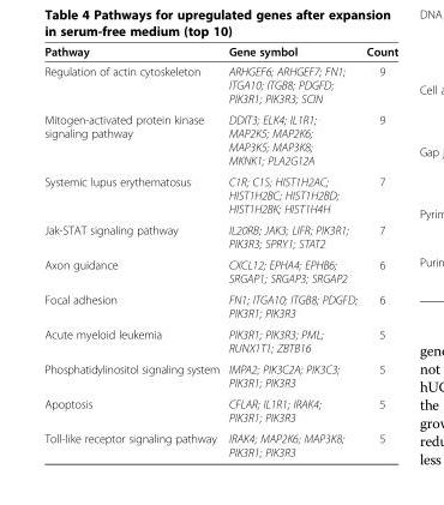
<table><thead><tr><td>Pathway</td><td>Gene symbol</td><td>Count</td></tr></thead><tbody><tr><td>Regulation of actin cytoskeleton</td><td>ARHGEF6; ARHGEF7; FN1; ITGA10; ITGB8; PDGFD; PIK3R1; PIK3R3; SCIN</td><td>9</td></tr><tr><td>Mitogen-activated protein kinase signaling pathway</td><td>DDIT3; ELK4; IL1R1; MAP2K5; MAP2K6; MAP3K5; MAP3K8; MKNK1; PLA2G12A</td><td>9</td></tr><tr><td>Systemic lupus erythematosus</td><td>C1R; C1S; HIST1H2AC; HIST1H2BC; HIST1H2BD; HIST1H2BK; HIST1H4H</td><td>7</td></tr><tr><td>Jak-STAT signaling pathway</td><td>IL20RB; JAK3; LIFR; PIK3R1; PIK3R3; SPRY1; STAT2</td><td>7</td></tr><tr><td>Axon guidance</td><td>CXCL12; EPHA4; EPHB6; SRGAP1; SRGAP3; SRGAP2</td><td>6</td></tr><tr><td>Focal adhesion</td><td>FN1; ITGA10; ITGB8; PDGFD; PIK3R1; PIK3R3</td><td>6</td></tr><tr><td>Acute myeloid leukemia</td><td>PIK3R1; PIK3R3; PML; RUNX1T1; ZBTB16</td><td>5</td></tr><tr><td>Phosphatidylinositol signaling system</td><td>IMPA2; PIK3C2A; PIK3C3; PIK3R1; PIK3R3</td><td>5</td></tr><tr><td>Apoptosis</td><td>CFLAR; IL1R1; IRAK4; PIK3R1; PIK3R3</td><td>5</td></tr><tr><td>Toll-like receptor signaling pathway</td><td>IRAK4; MAP2K6; MAP3K8; PIK3R1; PIK3R3</td><td>5</td></tr></tbody></table>